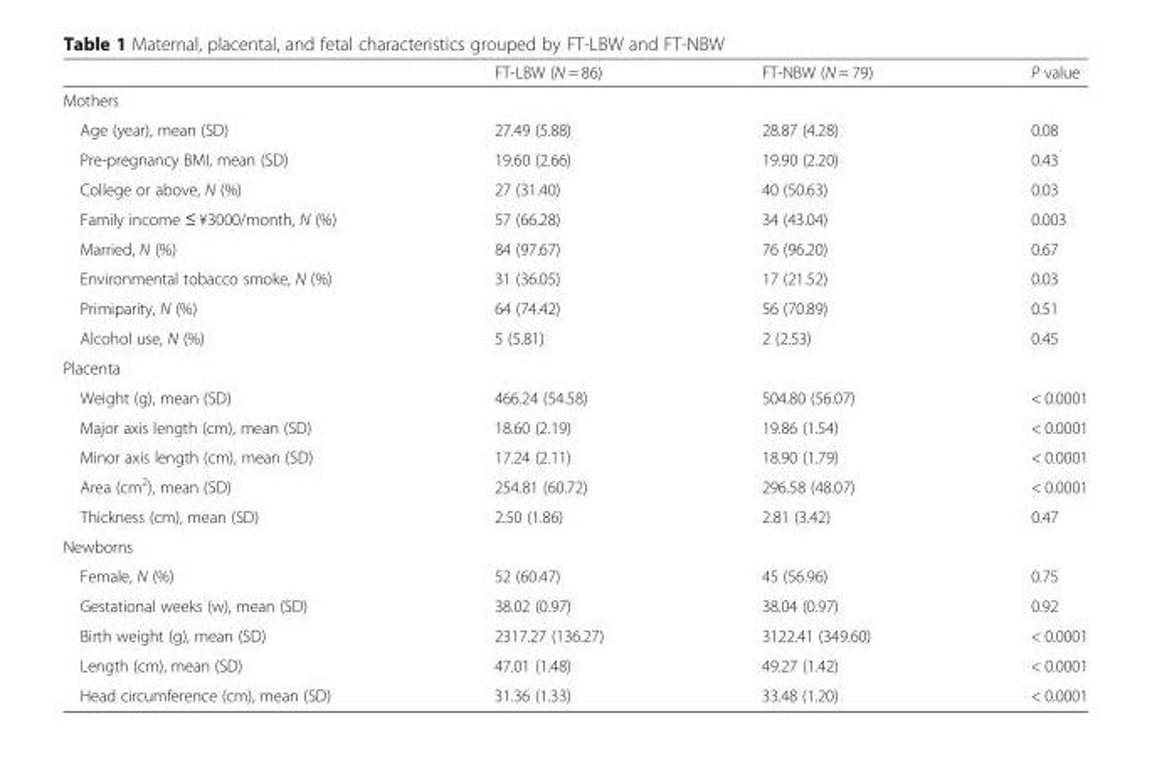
<table><thead><tr><td></td><td>FT-LBW (N = 86)</td><td>FT-NBW (N = 79)</td><td>P value</td></tr></thead><tbody><tr><td colspan="4">Mothers</td></tr><tr><td>Age (year), mean (SD)</td><td>27.49 (5.88)</td><td>28.87 (4.28)</td><td>0.08</td></tr><tr><td>Pre-pregnancy BMI, mean (SD)</td><td>19.60 (2.66)</td><td>19.90 (2.20)</td><td>0.43</td></tr><tr><td>College or above, N (%)</td><td>27 (31.40)</td><td>40 (50.63)</td><td>0.03</td></tr><tr><td>Family income ≤ ¥3000/month, N (%)</td><td>57 (66.28)</td><td>34 (43.04)</td><td>0.003</td></tr><tr><td>Married, N (%)</td><td>84 (97.67)</td><td>76 (96.20)</td><td>0.67</td></tr><tr><td>Environmental tobacco smoke, N (%)</td><td>31 (36.05)</td><td>17 (21.52)</td><td>0.03</td></tr><tr><td>Primiparity, N (%)</td><td>64 (74.42)</td><td>56 (70.89)</td><td>0.51</td></tr><tr><td>Alcohol use, N (%)</td><td>5 (5.81)</td><td>2 (2.53)</td><td>0.45</td></tr><tr><td colspan="4">Placenta</td></tr><tr><td>Weight (g), mean (SD)</td><td>466.24 (54.58)</td><td>504.80 (56.07)</td><td>&lt; 0.0001</td></tr><tr><td>Major axis length (cm), mean (SD)</td><td>18.60 (2.19)</td><td>19.86 (1.54)</td><td>&lt; 0.0001</td></tr><tr><td>Minor axis length (cm), mean (SD)</td><td>17.24 (2.11)</td><td>18.90 (1.79)</td><td>&lt; 0.0001</td></tr><tr><td>Area (cm<sup>2</sup>), mean (SD)</td><td>254.81 (60.72)</td><td>296.58 (48.07)</td><td>&lt; 0.0001</td></tr><tr><td>Thickness (cm), mean (SD)</td><td>2.50 (1.86)</td><td>2.81 (3.42)</td><td>0.47</td></tr><tr><td colspan="4">Newborns</td></tr><tr><td>Female, N (%)</td><td>52 (60.47)</td><td>45 (56.96)</td><td>0.75</td></tr><tr><td>Gestational weeks (w), mean (SD)</td><td>38.02 (0.97)</td><td>38.04 (0.97)</td><td>0.92</td></tr><tr><td>Birth weight (g), mean (SD)</td><td>2317.27 (136.27)</td><td>3122.41 (349.60)</td><td>&lt; 0.0001</td></tr><tr><td>Length (cm), mean (SD)</td><td>47.01 (1.48)</td><td>49.27 (1.42)</td><td>&lt; 0.0001</td></tr><tr><td>Head circumference (cm), mean (SD)</td><td>31.36 (1.33)</td><td>33.48 (1.20)</td><td>&lt; 0.0001</td></tr></tbody></table>